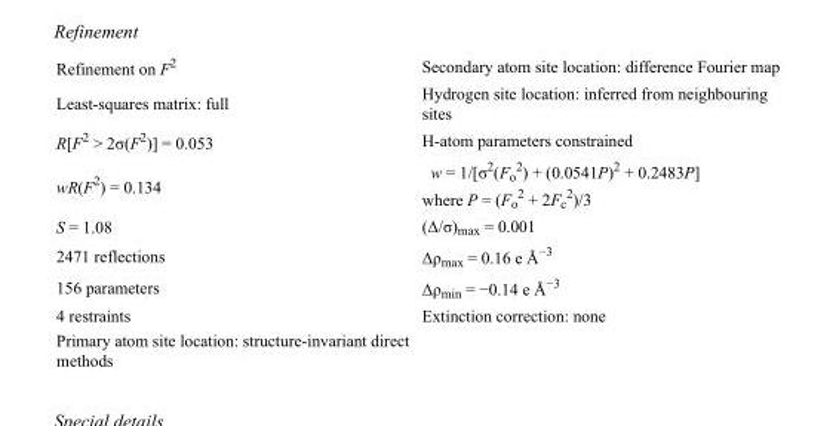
<table><tbody><tr><td>Refinement on F<sup>2</sup></td><td>Secondary atom site location: difference Fourier map</td></tr><tr><td>Least-squares matrix: full</td><td>Hydrogen site location: inferred from neighbouring sites</td></tr><tr><td>R[F<sup>2</sup> &gt; 2σ(F<sup>2</sup>)] = 0.053</td><td>H-atom parameters constrained</td></tr><tr><td>wR(F<sup>2</sup>) = 0.134</td><td>w = 1/[σ<sup>2</sup>(F<sub>o</sub> <sup>2</sup>) + (0.0541P)<sup>2</sup> + 0.2483P] where P = (F<sub>o</sub> <sup>2</sup> + 2F<sub>c</sub> <sup>2</sup>)/3</td></tr><tr><td>S = 1.08</td><td>(Δ/σ)<sub>max</sub> = 0.001</td></tr><tr><td>2471 reflections</td><td>Δρ<sub>max</sub> = 0.16 e Å<sup>−3</sup></td></tr><tr><td>156 parameters</td><td>Δρ<sub>min</sub> = −0.14 e Å<sup>−3</sup></td></tr><tr><td>4 restraints</td><td>Extinction correction: none</td></tr><tr><td>Primary atom site location: structure-invariant direct methods</td><td></td></tr></tbody></table>